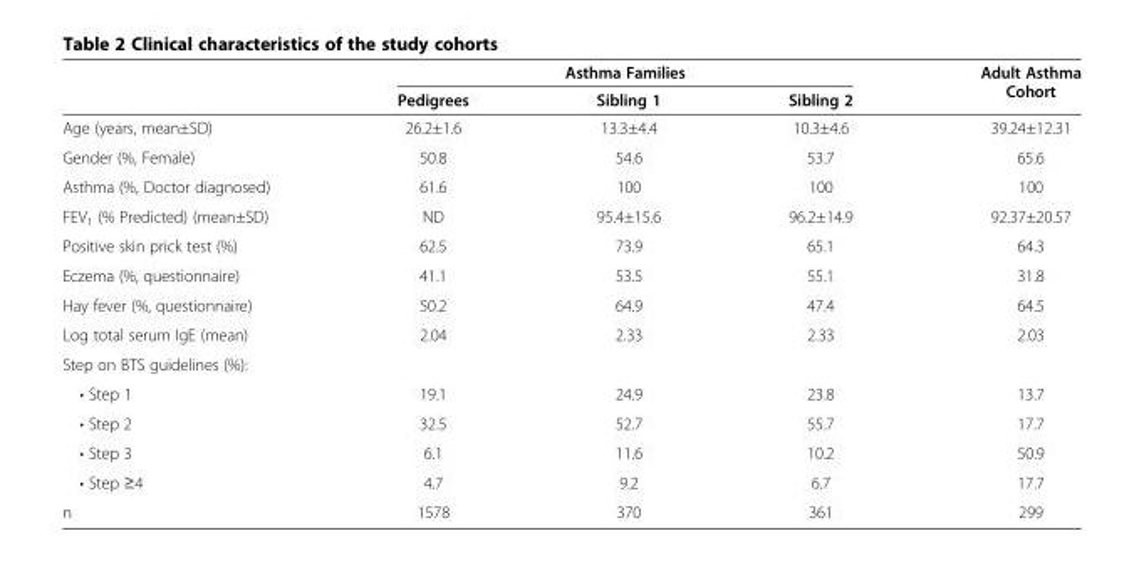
<table><thead><tr><td rowspan="2"></td><td colspan="3">Asthma Families</td><td rowspan="2">Adult Asthma Cohort</td></tr><tr><td>Pedigrees</td><td>Sibling 1</td><td>Sibling 2</td></tr></thead><tbody><tr><td>Age (years, mean±SD)</td><td>26.2±1.6</td><td>13.3±4.4</td><td>10.3±4.6</td><td>39.24±12.31</td></tr><tr><td>Gender (%, Female)</td><td>50.8</td><td>54.6</td><td>53.7</td><td>65.6</td></tr><tr><td>Asthma (%, Doctor diagnosed)</td><td>61.6</td><td>100</td><td>100</td><td>100</td></tr><tr><td>FEV<sub>1</sub> (% Predicted) (mean±SD)</td><td>ND</td><td>95.4±15.6</td><td>96.2±14.9</td><td>92.37±20.57</td></tr><tr><td>Positive skin prick test (%)</td><td>62.5</td><td>73.9</td><td>65.1</td><td>64.3</td></tr><tr><td>Eczema (%, questionnaire)</td><td>41.1</td><td>53.5</td><td>55.1</td><td>31.8</td></tr><tr><td>Hay fever (%, questionnaire)</td><td>50.2</td><td>64.9</td><td>47.4</td><td>64.5</td></tr><tr><td>Log total serum IgE (mean)</td><td>2.04</td><td>2.33</td><td>2.33</td><td>2.03</td></tr><tr><td colspan="5">Step on BTS guidelines (%):</td></tr><tr><td>• Step 1</td><td>19.1</td><td>24.9</td><td>23.8</td><td>13.7</td></tr><tr><td>• Step 2</td><td>32.5</td><td>52.7</td><td>55.7</td><td>17.7</td></tr><tr><td>• Step 3</td><td>6.1</td><td>11.6</td><td>10.2</td><td>50.9</td></tr><tr><td>• Step ≥4</td><td>4.7</td><td>9.2</td><td>6.7</td><td>17.7</td></tr><tr><td>n</td><td>1578</td><td>370</td><td>361</td><td>299</td></tr></tbody></table>